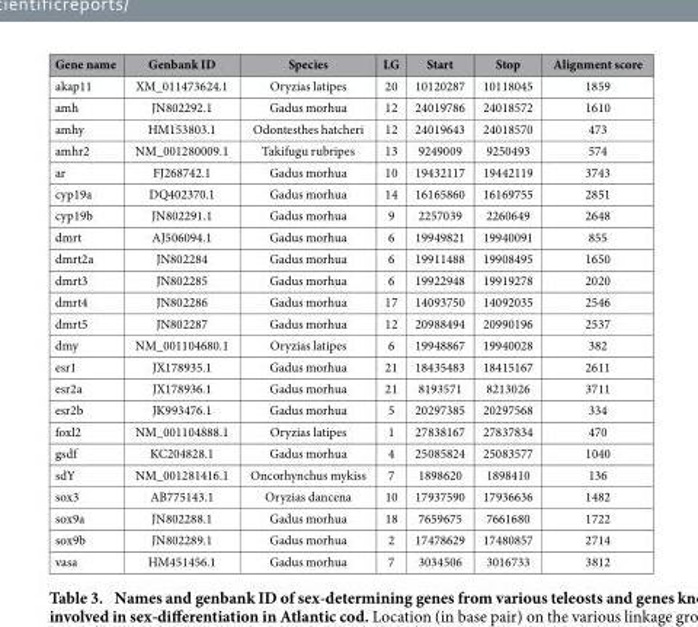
<table><thead><tr><td>Gene name</td><td>Genbank ID</td><td>Species</td><td>LG</td><td>Start</td><td>Stop</td><td>Alignment score</td></tr></thead><tbody><tr><td>akap11</td><td>XM_011473624.1</td><td>Oryzias latipes</td><td>20</td><td>10120287</td><td>10118045</td><td>1859</td></tr><tr><td>amh</td><td>JN802292.1</td><td>Gadus morhua</td><td>12</td><td>24019786</td><td>24018572</td><td>1610</td></tr><tr><td>amhy</td><td>HM153803.1</td><td>Odontesthes hatcheri</td><td>12</td><td>24019643</td><td>24018570</td><td>473</td></tr><tr><td>amhr2</td><td>NM_001280009.1</td><td>Takifugu rubripes</td><td>13</td><td>9249009</td><td>9250493</td><td>574</td></tr><tr><td>ar</td><td>FJ268742.1</td><td>Gadus morhua</td><td>10</td><td>19432117</td><td>19442119</td><td>3743</td></tr><tr><td>cyp19a</td><td>DQ402370.1</td><td>Gadus morhua</td><td>14</td><td>16165860</td><td>16169755</td><td>2851</td></tr><tr><td>cyp19b</td><td>JN802291.1</td><td>Gadus morhua</td><td>9</td><td>2257039</td><td>2260649</td><td>2648</td></tr><tr><td>dmrt</td><td>AJ506094.1</td><td>Gadus morhua</td><td>6</td><td>19949821</td><td>19940091</td><td>855</td></tr><tr><td>dmrt2a</td><td>JN802284</td><td>Gadus morhua</td><td>6</td><td>19911488</td><td>19908495</td><td>1650</td></tr><tr><td>dmrt3</td><td>JN802285</td><td>Gadus morhua</td><td>6</td><td>19922948</td><td>19919278</td><td>2020</td></tr><tr><td>dmrt4</td><td>JN802286</td><td>Gadus morhua</td><td>17</td><td>14093750</td><td>14092035</td><td>2546</td></tr><tr><td>dmrt5</td><td>JN802287</td><td>Gadus morhua</td><td>12</td><td>20988494</td><td>20990196</td><td>2537</td></tr><tr><td>dmy</td><td>NM_001104680.1</td><td>Oryzias latipes</td><td>6</td><td>19948867</td><td>19940028</td><td>382</td></tr><tr><td>esr1</td><td>JX178935.1</td><td>Gadus morhua</td><td>21</td><td>18435483</td><td>18415167</td><td>2611</td></tr><tr><td>esr2a</td><td>JX178936.1</td><td>Gadus morhua</td><td>21</td><td>8193571</td><td>8213026</td><td>3711</td></tr><tr><td>esr2b</td><td>JK993476.1</td><td>Gadus morhua</td><td>5</td><td>20297385</td><td>20297568</td><td>334</td></tr><tr><td>foxl2</td><td>NM_001104888.1</td><td>Oryzias latipes</td><td>1</td><td>27838167</td><td>27837834</td><td>470</td></tr><tr><td>gsdf</td><td>KC204828.1</td><td>Gadus morhua</td><td>4</td><td>25085824</td><td>25083577</td><td>1040</td></tr><tr><td>sdY</td><td>NM_001281416.1</td><td>Oncorhynchus mykiss</td><td>7</td><td>1898620</td><td>1898410</td><td>136</td></tr><tr><td>sox3</td><td>AB775143.1</td><td>Oryzias dancena</td><td>10</td><td>17937590</td><td>17936636</td><td>1482</td></tr><tr><td>sox9a</td><td>JN802288.1</td><td>Gadus morhua</td><td>18</td><td>7659675</td><td>7661680</td><td>1722</td></tr><tr><td>sox9b</td><td>JN802289.1</td><td>Gadus morhua</td><td>2</td><td>17478629</td><td>17480857</td><td>2714</td></tr><tr><td>vasa</td><td>HM451456.1</td><td>Gadus morhua</td><td>7</td><td>3034506</td><td>3016733</td><td>3812</td></tr></tbody></table>